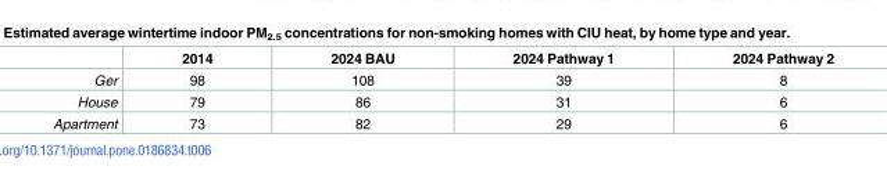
<table><thead><tr><td></td><td>2014</td><td>2024 BAU</td><td>2024 Pathway 1</td><td>2024 Pathway 2</td></tr></thead><tbody><tr><td>Ger</td><td>98</td><td>108</td><td>39</td><td>8</td></tr><tr><td>House</td><td>79</td><td>86</td><td>31</td><td>6</td></tr><tr><td>Apartment</td><td>73</td><td>82</td><td>29</td><td>6</td></tr></tbody></table>